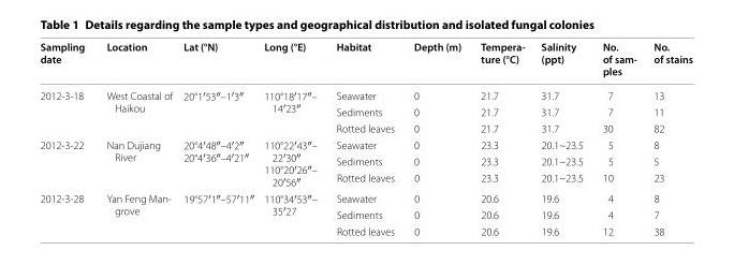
<table><thead><tr><td>Sampling date</td><td>Location</td><td>Lat (°N)</td><td>Long (°E)</td><td>Habitat</td><td>Depth (m)</td><td>Tempera- ture (°C)</td><td>Salinity (ppt)</td><td>No. of sam- ples</td><td>No. of stains</td></tr></thead><tbody><tr><td rowspan="3">2012-3-18</td><td rowspan="3">West Coastal of Haikou</td><td rowspan="3">20°1′53″–1′3″</td><td rowspan="3">110°18′17″– 14′23″</td><td>Seawater</td><td>0</td><td>21.7</td><td>31.7</td><td>7</td><td>13</td></tr><tr><td>Sediments</td><td>0</td><td>21.7</td><td>31.7</td><td>7</td><td>11</td></tr><tr><td>Rotted leaves</td><td>0</td><td>21.7</td><td>31.7</td><td>30</td><td>82</td></tr><tr><td rowspan="3">2012-3-22</td><td rowspan="3">Nan Dujiang River</td><td rowspan="3">20°4′48″–4′2″ 20°4′36″–4′21″</td><td rowspan="3">110°22′43″– 22′30″ 110°20′26″– 20′56″</td><td>Seawater</td><td>0</td><td>23.3</td><td>20.1~23.5</td><td>5</td><td>8</td></tr><tr><td>Sediments</td><td>0</td><td>23.3</td><td>20.1~23.5</td><td>5</td><td>5</td></tr><tr><td>Rotted leaves</td><td>0</td><td>23.3</td><td>20.1~23.5</td><td>10</td><td>23</td></tr><tr><td rowspan="3">2012-3-28</td><td rowspan="3">Yan Feng Man- grove</td><td rowspan="3">19°57′1″–57′11″</td><td rowspan="3">110°34′53″– 35′27</td><td>Seawater</td><td>0</td><td>20.6</td><td>19.6</td><td>4</td><td>8</td></tr><tr><td>Sediments</td><td>0</td><td>20.6</td><td>19.6</td><td>4</td><td>7</td></tr><tr><td>Rotted leaves</td><td>0</td><td>20.6</td><td>19.6</td><td>12</td><td>38</td></tr></tbody></table>